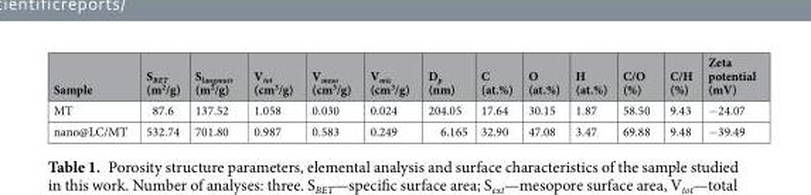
<table><thead><tr><td>Sample</td><td>S<sub>BET</sub> (m<sup>2</sup>/g)</td><td>S<sub>langmuir</sub> (m<sup>2</sup>/g)</td><td>V<sub>tot</sub> (cm<sup>3</sup>/g)</td><td>V<sub>meso</sub> (cm<sup>3</sup>/g)</td><td>V<sub>mic</sub> (cm<sup>3</sup>/g)</td><td>D<sub>p</sub> (nm)</td><td>C (at.%)</td><td>O (at.%)</td><td>H (at.%)</td><td>C/O (%)</td><td>C/H (%)</td><td>Zeta potential (mV)</td></tr></thead><tbody><tr><td>MT</td><td>87.6</td><td>137.52</td><td>1.058</td><td>0.030</td><td>0.024</td><td>204.05</td><td>17.64</td><td>30.15</td><td>1.87</td><td>58.50</td><td>9.43</td><td>−24.07</td></tr><tr><td>nano@LC/MT</td><td>532.74</td><td>701.80</td><td>0.987</td><td>0.583</td><td>0.249</td><td>6.165</td><td>32.90</td><td>47.08</td><td>3.47</td><td>69.88</td><td>9.48</td><td>−39.49</td></tr></tbody></table>